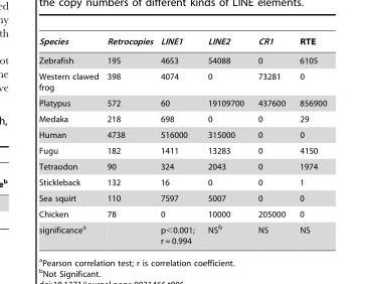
<table><thead><tr><td>Species</td><td>Retrocopies</td><td>LINE1</td><td>LINE2</td><td>CR1</td><td>RTE</td></tr></thead><tbody><tr><td>Zebrafish</td><td>195</td><td>4653</td><td>54088</td><td>0</td><td>6105</td></tr><tr><td>Western clawed frog</td><td>398</td><td>4074</td><td>0</td><td>73281</td><td>0</td></tr><tr><td>Platypus</td><td>572</td><td>60</td><td>19109700</td><td>437600</td><td>856900</td></tr><tr><td>Medaka</td><td>218</td><td>698</td><td>0</td><td>0</td><td>29</td></tr><tr><td>Human</td><td>4738</td><td>516000</td><td>315000</td><td>0</td><td>0</td></tr><tr><td>Fugu</td><td>182</td><td>1411</td><td>13283</td><td>0</td><td>4150</td></tr><tr><td>Tetraodon</td><td>90</td><td>324</td><td>2043</td><td>0</td><td>1974</td></tr><tr><td>Stickleback</td><td>132</td><td>16</td><td>0</td><td>0</td><td>1</td></tr><tr><td>Sea squirt</td><td>110</td><td>7597</td><td>5007</td><td>0</td><td>0</td></tr><tr><td>Chicken</td><td>78</td><td>0</td><td>10000</td><td>205000</td><td>0</td></tr><tr><td>significance<sup>a</sup></td><td></td><td>p&lt;0.001; r = 0.994</td><td>NS<sup>b</sup></td><td>NS</td><td>NS</td></tr></tbody></table>